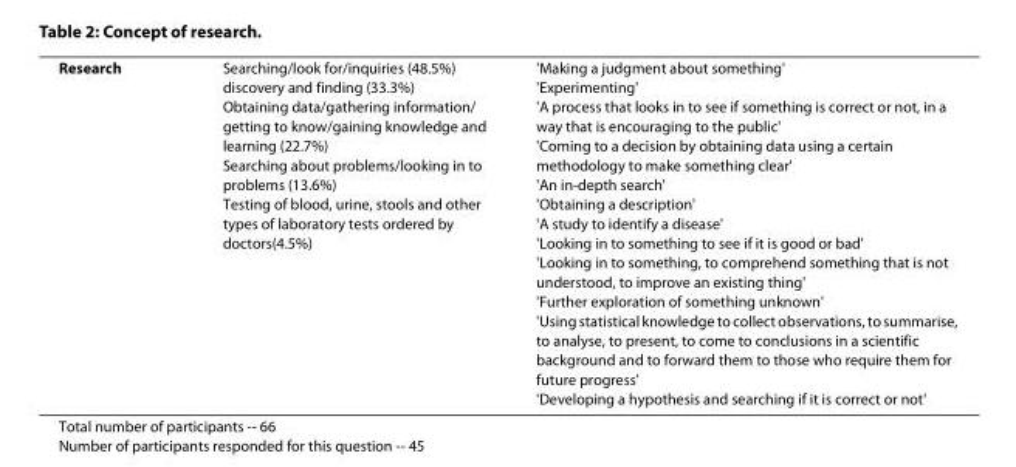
<table><tbody><tr><td>Research</td><td>Searching/look for/inquiries (48.5%) discovery and finding (33.3%) Obtaining data/gathering information/ getting to know/gaining knowledge and learning (22.7%) Searching about problems/looking in to problems (13.6%) Testing of blood, urine, stools and other types of laboratory tests ordered by doctors(4.5%)</td><td>&#x27;Making a judgment about something&#x27; &#x27;Experimenting&#x27; &#x27;A process that looks in to see if something is correct or not, in a way that is encouraging to the public&#x27; &#x27;Coming to a decision by obtaining data using a certain methodology to make something clear&#x27; &#x27;An in-depth search&#x27; &#x27;Obtaining a description&#x27; &#x27;A study to identify a disease&#x27; &#x27;Looking in to something to see if it is good or bad&#x27; &#x27;Looking in to something, to comprehend something that is not understood, to improve an existing thing&#x27; &#x27;Further exploration of something unknown&#x27; &#x27;Using statistical knowledge to collect observations, to summarise, to analyse, to present, to come to conclusions in a scientific background and to forward them to those who require them for future progress&#x27; &#x27;Developing a hypothesis and searching if it is correct or not&#x27;</td></tr></tbody></table>